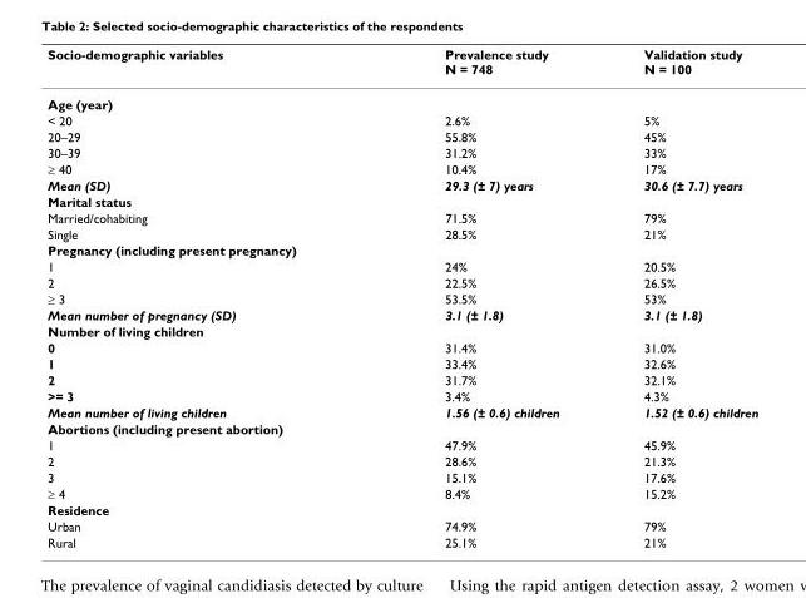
<table><thead><tr><td>Socio-demographic variables</td><td>Prevalence study N = 748</td><td>Validation study N = 100</td></tr></thead><tbody><tr><td colspan="3">Age (year)</td></tr><tr><td>&lt; 20</td><td>2.6%</td><td>5%</td></tr><tr><td>20–29</td><td>55.8%</td><td>45%</td></tr><tr><td>30–39</td><td>31.2%</td><td>33%</td></tr><tr><td>≥ 40</td><td>10.4%</td><td>17%</td></tr><tr><td>Mean (SD)</td><td>29.3 (± 7) years</td><td>30.6 (± 7.7) years</td></tr><tr><td colspan="3">Marital status</td></tr><tr><td>Married/cohabiting</td><td>71.5%</td><td>79%</td></tr><tr><td>Single</td><td>28.5%</td><td>21%</td></tr><tr><td colspan="3">Pregnancy (including present pregnancy)</td></tr><tr><td>1</td><td>24%</td><td>20.5%</td></tr><tr><td>2</td><td>22.5%</td><td>26.5%</td></tr><tr><td>≥ 3</td><td>53.5%</td><td>53%</td></tr><tr><td>Mean number of pregnancy (SD)</td><td>3.1 (± 1.8)</td><td>3.1 (± 1.8)</td></tr><tr><td colspan="3">Number of living children</td></tr><tr><td>0</td><td>31.4%</td><td>31.0%</td></tr><tr><td>1</td><td>33.4%</td><td>32.6%</td></tr><tr><td>2</td><td>31.7%</td><td>32.1%</td></tr><tr><td>&gt;= 3</td><td>3.4%</td><td>4.3%</td></tr><tr><td>Mean number of living children</td><td>1.56 (± 0.6) children</td><td>1.52 (± 0.6) children</td></tr><tr><td colspan="3">Abortions (including present abortion)</td></tr><tr><td>1</td><td>47.9%</td><td>45.9%</td></tr><tr><td>2</td><td>28.6%</td><td>21.3%</td></tr><tr><td>3</td><td>15.1%</td><td>17.6%</td></tr><tr><td>≥ 4</td><td>8.4%</td><td>15.2%</td></tr><tr><td colspan="3">Residence</td></tr><tr><td>Urban</td><td>74.9%</td><td>79%</td></tr><tr><td>Rural</td><td>25.1%</td><td>21%</td></tr></tbody></table>